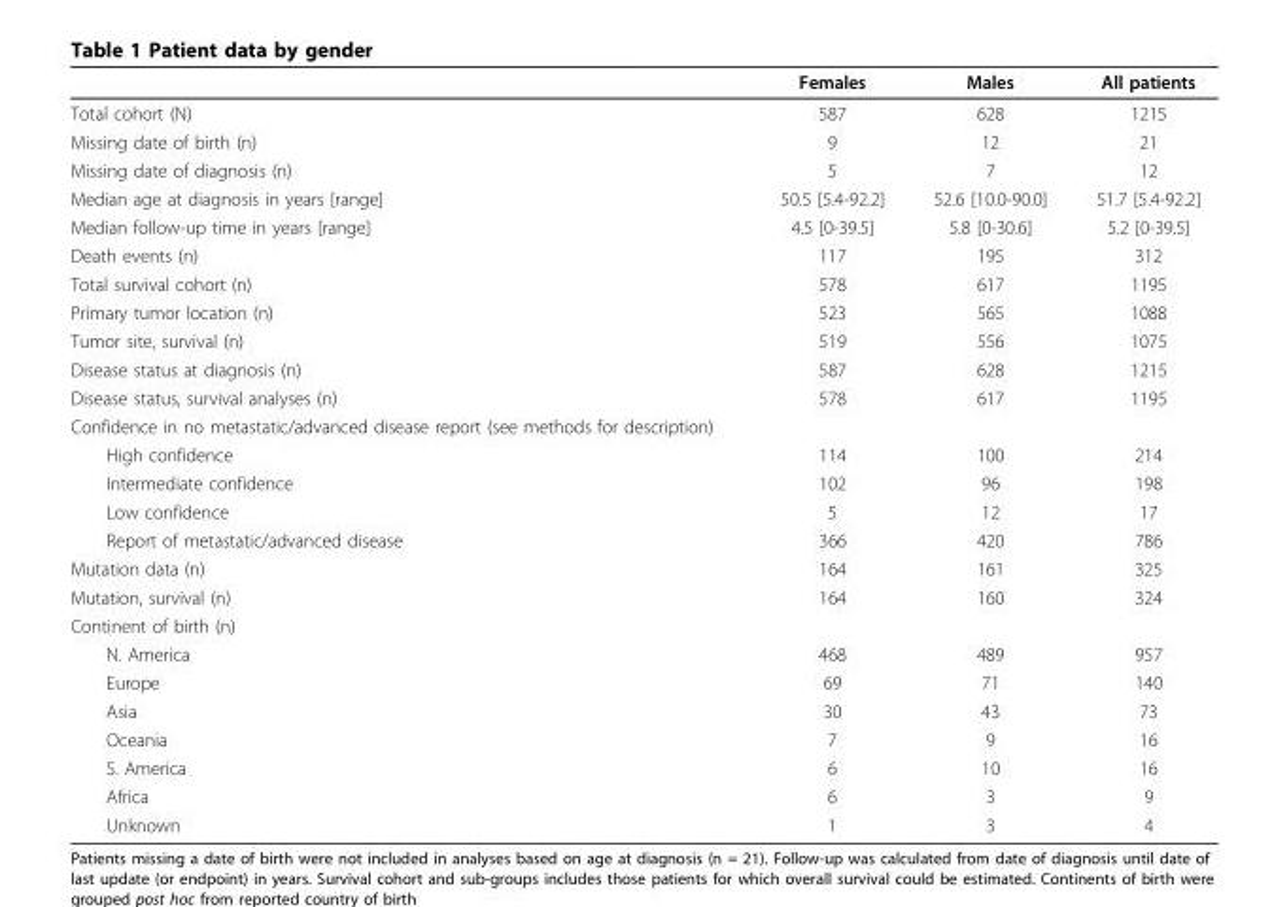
<table><thead><tr><td></td><td>Females</td><td>Males</td><td>All patients</td></tr></thead><tbody><tr><td>Total cohort (N)</td><td>587</td><td>628</td><td>1215</td></tr><tr><td>Missing date of birth (n)</td><td>9</td><td>12</td><td>21</td></tr><tr><td>Missing date of diagnosis (n)</td><td>5</td><td>7</td><td>12</td></tr><tr><td>Median age at diagnosis in years [range]</td><td>50.5 [5.4-92.2]</td><td>52.6 [10.0-90.0]</td><td>51.7 [5.4-92.2]</td></tr><tr><td>Median follow-up time in years [range]</td><td>4.5 [0-39.5]</td><td>5.8 [0-30.6]</td><td>5.2 [0-39.5]</td></tr><tr><td>Death events (n)</td><td>117</td><td>195</td><td>312</td></tr><tr><td>Total survival cohort (n)</td><td>578</td><td>617</td><td>1195</td></tr><tr><td>Primary tumor location (n)</td><td>523</td><td>565</td><td>1088</td></tr><tr><td>Tumor site, survival (n)</td><td>519</td><td>556</td><td>1075</td></tr><tr><td>Disease status at diagnosis (n)</td><td>587</td><td>628</td><td>1215</td></tr><tr><td>Disease status, survival analyses (n)</td><td>578</td><td>617</td><td>1195</td></tr><tr><td colspan="4">Confidence in no metastatic/advanced disease report (see methods for description)</td></tr><tr><td>High confidence</td><td>114</td><td>100</td><td>214</td></tr><tr><td>Intermediate confidence</td><td>102</td><td>96</td><td>198</td></tr><tr><td>Low confidence</td><td>5</td><td>12</td><td>17</td></tr><tr><td>Report of metastatic/advanced disease</td><td>366</td><td>420</td><td>786</td></tr><tr><td>Mutation data (n)</td><td>164</td><td>161</td><td>325</td></tr><tr><td>Mutation, survival (n)</td><td>164</td><td>160</td><td>324</td></tr><tr><td colspan="4">Continent of birth (n)</td></tr><tr><td>N. America</td><td>468</td><td>489</td><td>957</td></tr><tr><td>Europe</td><td>69</td><td>71</td><td>140</td></tr><tr><td>Asia</td><td>30</td><td>43</td><td>73</td></tr><tr><td>Oceania</td><td>7</td><td>9</td><td>16</td></tr><tr><td>S. America</td><td>6</td><td>10</td><td>16</td></tr><tr><td>Africa</td><td>6</td><td>3</td><td>9</td></tr><tr><td>Unknown</td><td>1</td><td>3</td><td>4</td></tr></tbody></table>